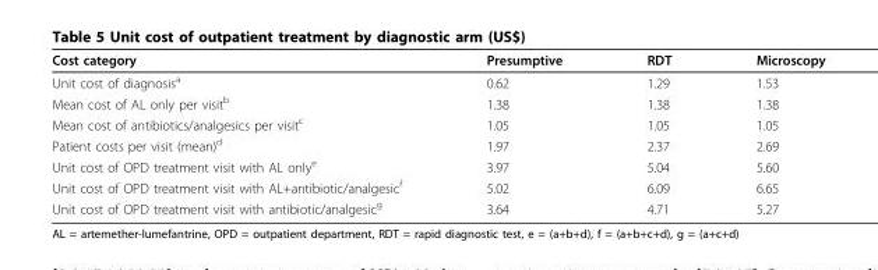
<table><thead><tr><td>Cost category</td><td>Presumptive</td><td>RDT</td><td>Microscopy</td></tr></thead><tbody><tr><td>Unit cost of diagnosis<sup>a</sup></td><td>0.62</td><td>1.29</td><td>1.53</td></tr><tr><td>Mean cost of AL only per visit<sup>b</sup></td><td>1.38</td><td>1.38</td><td>1.38</td></tr><tr><td>Mean cost of antibiotics/analgesics per visit<sup>c</sup></td><td>1.05</td><td>1.05</td><td>1.05</td></tr><tr><td>Patient costs per visit (mean)<sup>d</sup></td><td>1.97</td><td>2.37</td><td>2.69</td></tr><tr><td>Unit cost of OPD treatment visit with AL only<sup>e</sup></td><td>3.97</td><td>5.04</td><td>5.60</td></tr><tr><td>Unit cost of OPD treatment visit with AL+antibiotic/analgesic<sup>f</sup></td><td>5.02</td><td>6.09</td><td>6.65</td></tr><tr><td>Unit cost of OPD treatment visit with antibiotic/analgesic<sup>g</sup></td><td>3.64</td><td>4.71</td><td>5.27</td></tr></tbody></table>